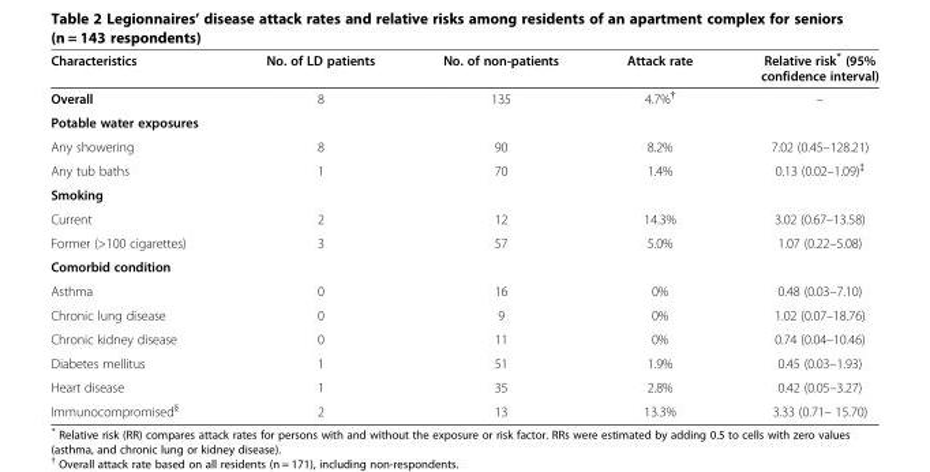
<table><thead><tr><td>Characteristics</td><td>No. of LD patients</td><td>No. of non-patients</td><td>Attack rate</td><td>Relative risk* (95% confidence interval)</td></tr></thead><tbody><tr><td>Overall</td><td>8</td><td>135</td><td>4.7%<sup>†</sup></td><td>–</td></tr><tr><td colspan="5">Potable water exposures</td></tr><tr><td>Any showering</td><td>8</td><td>90</td><td>8.2%</td><td>7.02 (0.45–128.21)</td></tr><tr><td>Any tub baths</td><td>1</td><td>70</td><td>1.4%</td><td>0.13 (0.02–1.09)<sup>‡</sup></td></tr><tr><td colspan="5">Smoking</td></tr><tr><td>Current</td><td>2</td><td>12</td><td>14.3%</td><td>3.02 (0.67–13.58)</td></tr><tr><td>Former (&gt;100 cigarettes)</td><td>3</td><td>57</td><td>5.0%</td><td>1.07 (0.22–5.08)</td></tr><tr><td colspan="5">Comorbid condition</td></tr><tr><td>Asthma</td><td>0</td><td>16</td><td>0%</td><td>0.48 (0.03–7.10)</td></tr><tr><td>Chronic lung disease</td><td>0</td><td>9</td><td>0%</td><td>1.02 (0.07–18.76)</td></tr><tr><td>Chronic kidney disease</td><td>0</td><td>11</td><td>0%</td><td>0.74 (0.04–10.46)</td></tr><tr><td>Diabetes mellitus</td><td>1</td><td>51</td><td>1.9%</td><td>0.45 (0.03–1.93)</td></tr><tr><td>Heart disease</td><td>1</td><td>35</td><td>2.8%</td><td>0.42 (0.05–3.27)</td></tr><tr><td>Immunocompromised<sup>§</sup></td><td>2</td><td>13</td><td>13.3%</td><td>3.33 (0.71– 15.70)</td></tr></tbody></table>